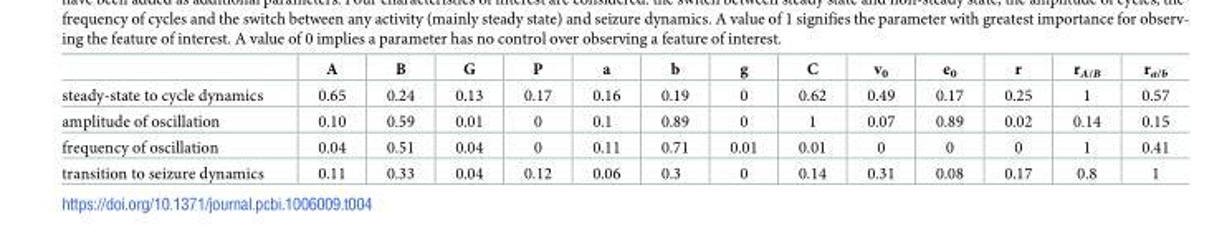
<table><thead><tr><td></td><td>A</td><td>B</td><td>G</td><td>P</td><td>a</td><td>b</td><td>g</td><td>C</td><td>v<sub>0</sub></td><td>e<sub>0</sub></td><td>r</td><td>r<sub>A/B</sub></td><td>r<sub>a/b</sub></td></tr></thead><tbody><tr><td>steady-state to cycle dynamics</td><td>0.65</td><td>0.24</td><td>0.13</td><td>0.17</td><td>0.16</td><td>0.19</td><td>0</td><td>0.62</td><td>0.49</td><td>0.17</td><td>0.25</td><td>1</td><td>0.57</td></tr><tr><td>amplitude of oscillation</td><td>0.10</td><td>0.59</td><td>0.01</td><td>0</td><td>0.1</td><td>0.89</td><td>0</td><td>1</td><td>0.07</td><td>0.89</td><td>0.02</td><td>0.14</td><td>0.15</td></tr><tr><td>frequency of oscillation</td><td>0.04</td><td>0.51</td><td>0.04</td><td>0</td><td>0.11</td><td>0.71</td><td>0.01</td><td>0.01</td><td>0</td><td>0</td><td>0</td><td>1</td><td>0.41</td></tr><tr><td>transition to seizure dynamics</td><td>0.11</td><td>0.33</td><td>0.04</td><td>0.12</td><td>0.06</td><td>0.3</td><td>0</td><td>0.14</td><td>0.31</td><td>0.08</td><td>0.17</td><td>0.8</td><td>1</td></tr></tbody></table>